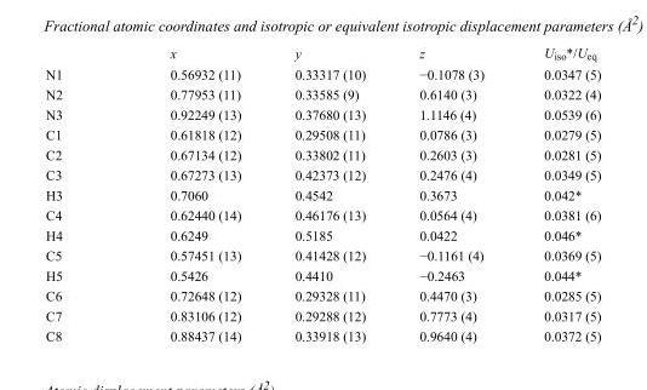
<table><thead><tr><td></td><td>x</td><td>y</td><td>z</td><td>U<sub>iso</sub>*/U<sub>eq</sub></td></tr></thead><tbody><tr><td>N1</td><td>0.56932 (11)</td><td>0.33317 (10)</td><td>−0.1078 (3)</td><td>0.0347 (5)</td></tr><tr><td>N2</td><td>0.77953 (11)</td><td>0.33585 (9)</td><td>0.6140 (3)</td><td>0.0322 (4)</td></tr><tr><td>N3</td><td>0.92249 (13)</td><td>0.37680 (13)</td><td>1.1146 (4)</td><td>0.0539 (6)</td></tr><tr><td>C1</td><td>0.61818 (12)</td><td>0.29508 (11)</td><td>0.0786 (3)</td><td>0.0279 (5)</td></tr><tr><td>C2</td><td>0.67134 (12)</td><td>0.33802 (11)</td><td>0.2603 (3)</td><td>0.0281 (5)</td></tr><tr><td>C3</td><td>0.67273 (13)</td><td>0.42373 (12)</td><td>0.2476 (4)</td><td>0.0349 (5)</td></tr><tr><td>H3</td><td>0.7060</td><td>0.4542</td><td>0.3673</td><td>0.042*</td></tr><tr><td>C4</td><td>0.62440 (14)</td><td>0.46176 (13)</td><td>0.0564 (4)</td><td>0.0381 (6)</td></tr><tr><td>H4</td><td>0.6249</td><td>0.5185</td><td>0.0422</td><td>0.046*</td></tr><tr><td>C5</td><td>0.57451 (13)</td><td>0.41428 (12)</td><td>−0.1161 (4)</td><td>0.0369 (5)</td></tr><tr><td>H5</td><td>0.5426</td><td>0.4410</td><td>−0.2463</td><td>0.044*</td></tr><tr><td>C6</td><td>0.72648 (12)</td><td>0.29328 (11)</td><td>0.4470 (3)</td><td>0.0285 (5)</td></tr><tr><td>C7</td><td>0.83106 (12)</td><td>0.29288 (12)</td><td>0.7773 (4)</td><td>0.0317 (5)</td></tr><tr><td>C8</td><td>0.88437 (14)</td><td>0.33918 (13)</td><td>0.9640 (4)</td><td>0.0372 (5)</td></tr></tbody></table>